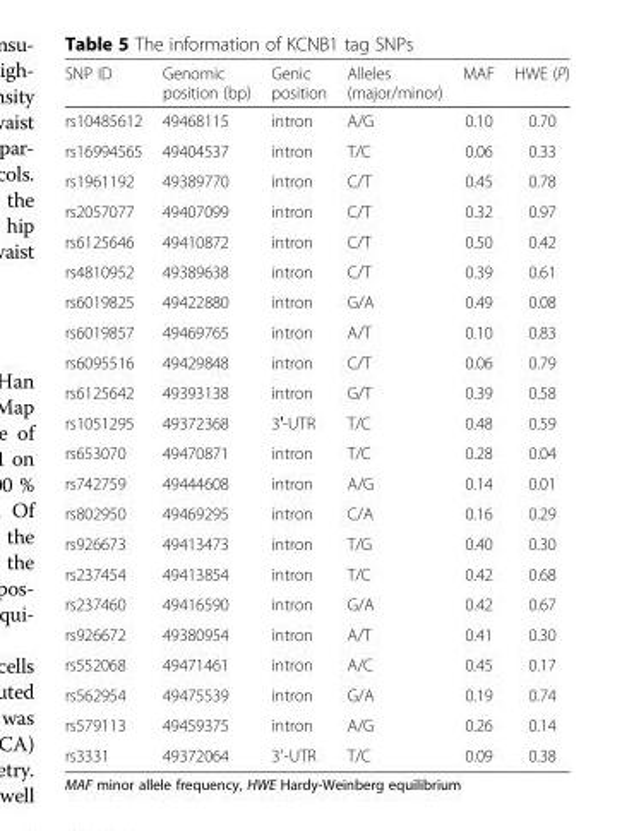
<table><thead><tr><td>SNP ID</td><td>Genomic position (bp)</td><td>Genic position</td><td>Alleles (major/minor)</td><td>MAF</td><td>HWE (P)</td></tr></thead><tbody><tr><td>rs10485612</td><td>49468115</td><td>intron</td><td>A/G</td><td>0.10</td><td>0.70</td></tr><tr><td>rs16994565</td><td>49404537</td><td>intron</td><td>T/C</td><td>0.06</td><td>0.33</td></tr><tr><td>rs1961192</td><td>49389770</td><td>intron</td><td>C/T</td><td>0.45</td><td>0.78</td></tr><tr><td>rs2057077</td><td>49407099</td><td>intron</td><td>C/T</td><td>0.32</td><td>0.97</td></tr><tr><td>rs6125646</td><td>49410872</td><td>intron</td><td>C/T</td><td>0.50</td><td>0.42</td></tr><tr><td>rs4810952</td><td>49389638</td><td>intron</td><td>C/T</td><td>0.39</td><td>0.61</td></tr><tr><td>rs6019825</td><td>49422880</td><td>intron</td><td>G/A</td><td>0.49</td><td>0.08</td></tr><tr><td>rs6019857</td><td>49469765</td><td>intron</td><td>A/T</td><td>0.10</td><td>0.83</td></tr><tr><td>rs6095516</td><td>49429848</td><td>intron</td><td>C/T</td><td>0.06</td><td>0.79</td></tr><tr><td>rs6125642</td><td>49393138</td><td>intron</td><td>G/T</td><td>0.39</td><td>0.58</td></tr><tr><td>rs1051295</td><td>49372368</td><td>3′-UTR</td><td>T/C</td><td>0.48</td><td>0.59</td></tr><tr><td>rs653070</td><td>49470871</td><td>intron</td><td>T/C</td><td>0.28</td><td>0.04</td></tr><tr><td>rs742759</td><td>49444608</td><td>intron</td><td>A/G</td><td>0.14</td><td>0.01</td></tr><tr><td>rs802950</td><td>49469295</td><td>intron</td><td>C/A</td><td>0.16</td><td>0.29</td></tr><tr><td>rs926673</td><td>49413473</td><td>intron</td><td>T/G</td><td>0.40</td><td>0.30</td></tr><tr><td>rs237454</td><td>49413854</td><td>intron</td><td>T/C</td><td>0.42</td><td>0.68</td></tr><tr><td>rs237460</td><td>49416590</td><td>intron</td><td>G/A</td><td>0.42</td><td>0.67</td></tr><tr><td>rs926672</td><td>49380954</td><td>intron</td><td>A/T</td><td>0.41</td><td>0.30</td></tr><tr><td>rs552068</td><td>49471461</td><td>intron</td><td>A/C</td><td>0.45</td><td>0.17</td></tr><tr><td>rs562954</td><td>49475539</td><td>intron</td><td>G/A</td><td>0.19</td><td>0.74</td></tr><tr><td>rs579113</td><td>49459375</td><td>intron</td><td>A/G</td><td>0.26</td><td>0.14</td></tr><tr><td>rs3331</td><td>49372064</td><td>3′-UTR</td><td>T/C</td><td>0.09</td><td>0.38</td></tr></tbody></table>